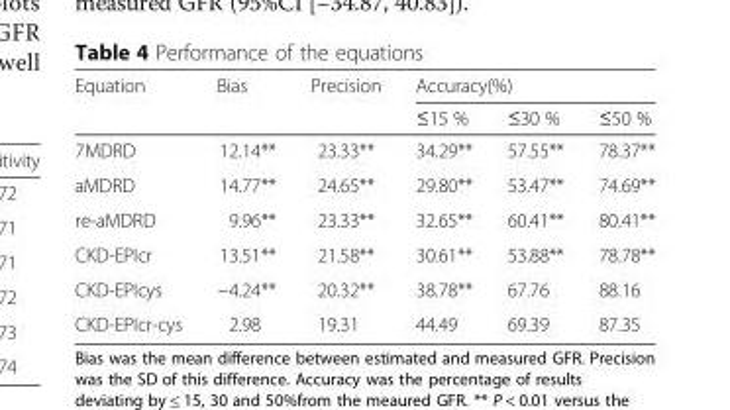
<table><thead><tr><td rowspan="2">Equation</td><td rowspan="2">Bias</td><td rowspan="2">Precision</td><td colspan="3">Accuracy(%)</td></tr><tr><td>≤15 %</td><td>≤30 %</td><td>≤50 %</td></tr></thead><tbody><tr><td>7MDRD</td><td>12.14**</td><td>23.33**</td><td>34.29**</td><td>57.55**</td><td>78.37**</td></tr><tr><td>aMDRD</td><td>14.77**</td><td>24.65**</td><td>29.80**</td><td>53.47**</td><td>74.69**</td></tr><tr><td>re-aMDRD</td><td>9.96**</td><td>23.33**</td><td>32.65**</td><td>60.41**</td><td>80.41**</td></tr><tr><td>CKD-EPIcr</td><td>13.51**</td><td>21.58**</td><td>30.61**</td><td>53.88**</td><td>78.78**</td></tr><tr><td>CKD-EPIcys</td><td>−4.24**</td><td>20.32**</td><td>38.78**</td><td>67.76</td><td>88.16</td></tr><tr><td>CKD-EPIcr-cys</td><td>2.98</td><td>19.31</td><td>44.49</td><td>69.39</td><td>87.35</td></tr></tbody></table>